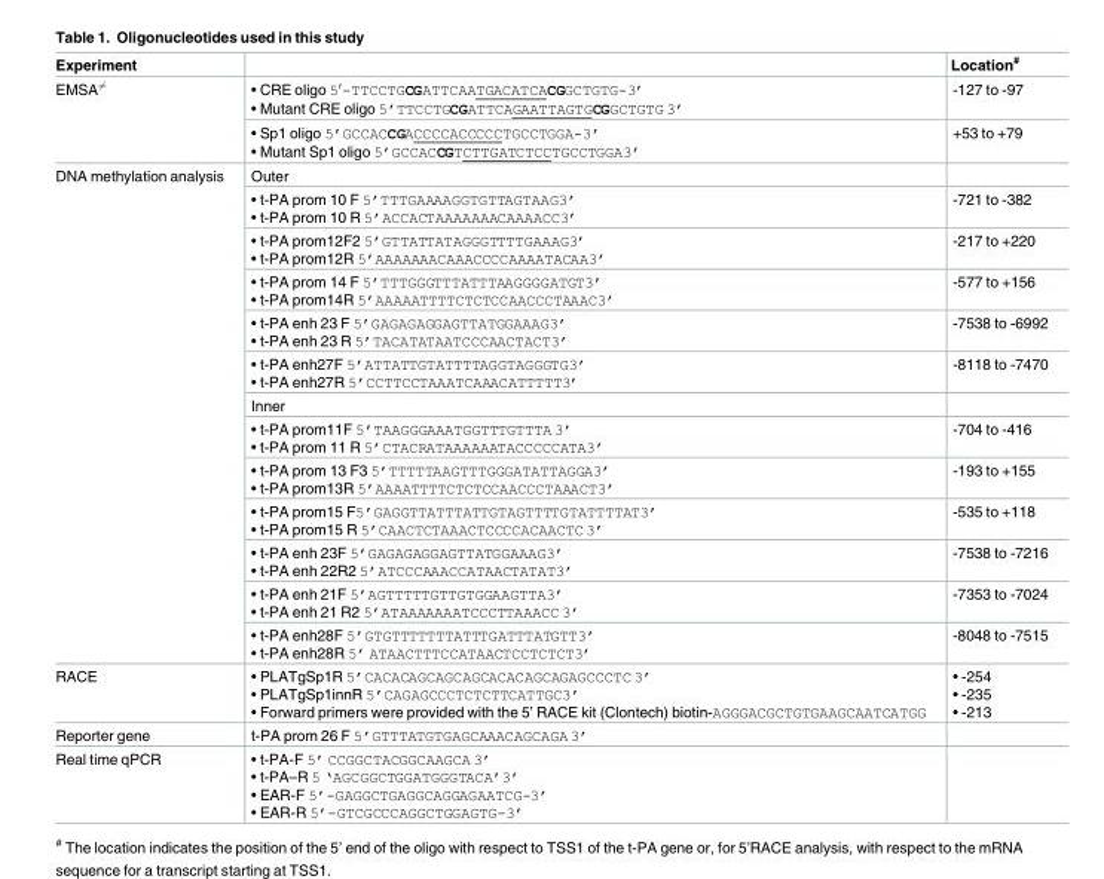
<table><thead><tr><td>Experiment</td><td></td><td>Location<sup>#</sup></td></tr></thead><tbody><tr><td rowspan="2">EMSA6¼</td><td>• CRE oligo 5′-TTCCTGCGATTCAATGACATCACGGCTGTG-3’ • Mutant CRE oligo 5’TTCCTGCGATTCAGAATTAGTGCGGCTGTG 3’</td><td>-127 to -97</td></tr><tr><td>• Sp1 oligo 5’GCCACCGACCCCACCCCCTGCCTGGA-3’ • Mutant Sp1 oligo 5’GCCACCGTCTTGATCTCCTGCCTGGA3’</td><td>+53 to +79</td></tr><tr><td rowspan="13">DNA methylation analysis</td><td>Outer</td><td></td></tr><tr><td>• t-PA prom 10 F 5’TTTGAAAAGGTGTTAGTAAG3’ • t-PA prom 10 R 5’ACCACTAAAAAAACAAAACC3’</td><td>-721 to -382</td></tr><tr><td>• t-PA prom12F2 5’GTTATTATAGGGTTTTGAAAG3’ • t-PA prom12R 5’AAAAAAACAAACCCCAAAATACAA3’</td><td>-217 to +220</td></tr><tr><td>• t-PA prom 14 F 5’TTTGGGTTTATTTAAGGGGATGT3’ • t-PA prom14R 5’AAAAATTTTCTCTCCAACCCTAAAC3’</td><td>-577 to +156</td></tr><tr><td>• t-PA enh 23 F 5’GAGAGAGGAGTTATGGAAAG3’ • t-PA enh 23 R 5’TACATATAATCCCAACTACT3’</td><td>-7538 to -6992</td></tr><tr><td>• t-PA enh27F 5’ATTATTGTATTTTAGGTAGGGTG3’ • t-PA enh27R 5’CCTTCCTAAATCAAACATTTTT3’</td><td>-8118 to -7470</td></tr><tr><td>Inner</td><td></td></tr><tr><td>• t-PA prom11F 5’TAAGGGAAATGGTTTGTTTA 3’ • t-PA prom 11 R 5’CTACRATAAAAAATACCCCCATA3’</td><td>-704 to -416</td></tr><tr><td>• t-PA prom 13 F3 5’TTTTTAAGTTTGGGATATTAGGA3’ • t-PA prom13R 5’AAAATTTTCTCTCCAACCCTAAACT3’</td><td>-193 to +155</td></tr><tr><td>• t-PA prom15 F5’GAGGTTATTTATTGTAGTTTTGTATTTTAT3’ • t-PA prom15 R 5’CAACTCTAAACTCCCCACAACTC 3’</td><td>-535 to +118</td></tr><tr><td>• t-PA enh 23F 5’GAGAGAGGAGTTATGGAAAG3’ • t-PA enh 22R2 5’ATCCCAAACCATAACTATAT3’</td><td>-7538 to -7216</td></tr><tr><td>• t-PA enh 21F 5’AGTTTTTGTTGTGGAAGTTA3’ • t-PA enh 21 R2 5’ATAAAAAAATCCCTTAAACC 3’</td><td>-7353 to -7024</td></tr><tr><td>• t-PA enh28F 5’GTGTTTTTTTATTTGATTTATGTT3’ • t-PA enh28R 5’ ATAACTTTCCATAACTCCTCTCT3’</td><td>-8048 to -7515</td></tr><tr><td>RACE</td><td>• PLATgSp1R 5’CACACAGCAGCAGCACACAGCAGAGCCCTC 3’ • PLATgSp1innR 5’CAGAGCCCTCTCTTCATTGC3’ • Forward primers were provided with the 5’ RACE kit (Clontech) biotin-AGGGACGCTGTGAAGCAATCATGG</td><td>• -254 • -235 • -213</td></tr><tr><td>Reporter gene</td><td>t-PA prom 26 F 5’GTTTATGTGAGCAAACAGCAGA 3’</td><td></td></tr><tr><td>Real time qPCR</td><td>• t-PA-F 5’ CCGGCTACGGCAAGCA 3’ • t-PA–R 5 ‘AGCGGCTGGATGGGTACA’3’ • EAR-F 5’-GAGGCTGAGGCAGGAGAATCG-3’ • EAR-R 5’-GTCGCCCAGGCTGGAGTG-3’</td><td></td></tr></tbody></table>